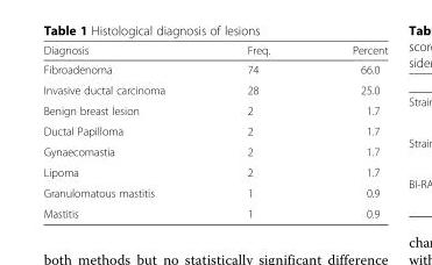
<table><thead><tr><td>Diagnosis</td><td>Freq.</td><td>Percent</td></tr></thead><tbody><tr><td>Fibroadenoma</td><td>74</td><td>66.0</td></tr><tr><td>Invasive ductal carcinoma</td><td>28</td><td>25.0</td></tr><tr><td>Benign breast lesion</td><td>2</td><td>1.7</td></tr><tr><td>Ductal Papilloma</td><td>2</td><td>1.7</td></tr><tr><td>Gynaecomastia</td><td>2</td><td>1.7</td></tr><tr><td>Lipoma</td><td>2</td><td>1.7</td></tr><tr><td>Granulomatous mastitis</td><td>1</td><td>0.9</td></tr><tr><td>Mastitis</td><td>1</td><td>0.9</td></tr></tbody></table>